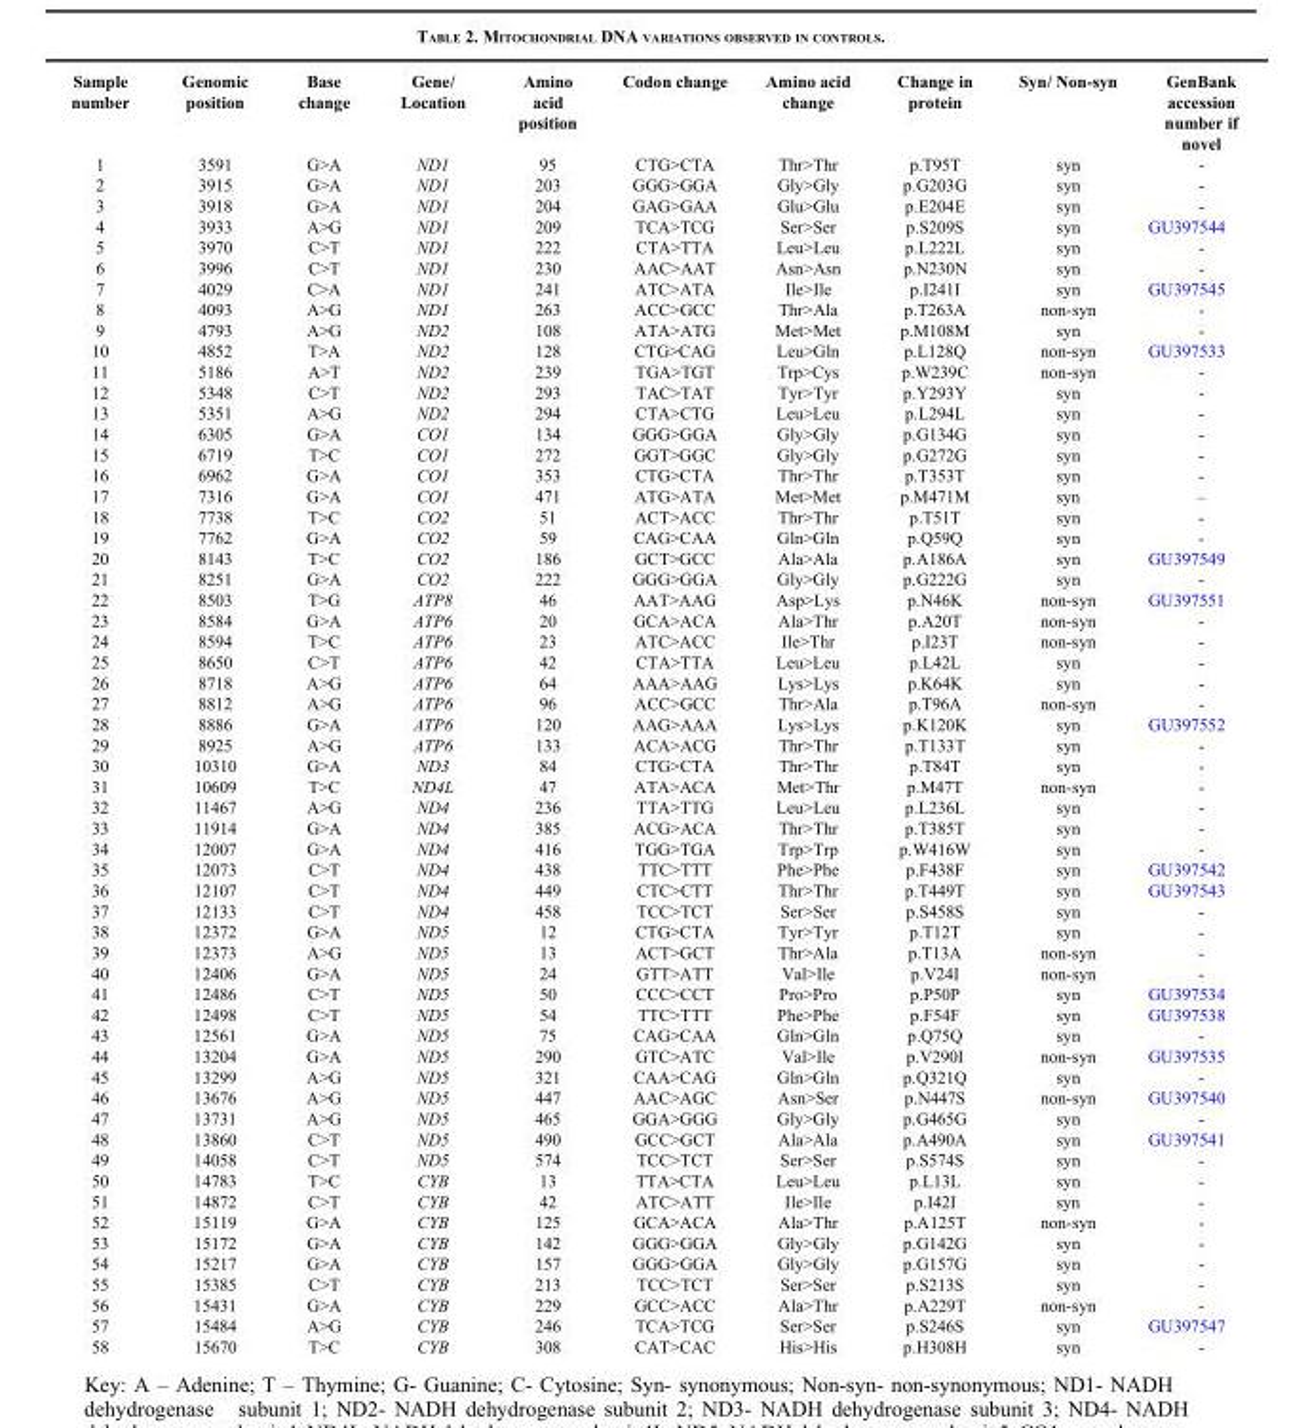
<table><thead><tr><td>Sample number</td><td>Genomic position</td><td>Base change</td><td>Gene/ Location</td><td>Amino acid position</td><td>Codon change</td><td>Amino acid change</td><td>Change in protein</td><td>Syn/ Non-syn</td><td>GenBank accession number if novel</td></tr></thead><tbody><tr><td>1</td><td>3591</td><td>G&gt;A</td><td>ND1</td><td>95</td><td>CTG&gt;CTA</td><td>Thr&gt;Thr</td><td>p.T95T</td><td>syn</td><td>-</td></tr><tr><td>2</td><td>3915</td><td>G&gt;A</td><td>ND1</td><td>203</td><td>GGG&gt;GGA</td><td>Gly&gt;Gly</td><td>p.G203G</td><td>syn</td><td>-</td></tr><tr><td>3</td><td>3918</td><td>G&gt;A</td><td>ND1</td><td>204</td><td>GAG&gt;GAA</td><td>Glu&gt;Glu</td><td>p.E204E</td><td>syn</td><td>-</td></tr><tr><td>4</td><td>3933</td><td>A&gt;G</td><td>ND1</td><td>209</td><td>TCA&gt;TCG</td><td>Ser&gt;Ser</td><td>p.S209S</td><td>syn</td><td>GU397544</td></tr><tr><td>5</td><td>3970</td><td>C&gt;T</td><td>ND1</td><td>222</td><td>CTA&gt;TTA</td><td>Leu&gt;Leu</td><td>p.L222L</td><td>syn</td><td>-</td></tr><tr><td>6</td><td>3996</td><td>C&gt;T</td><td>ND1</td><td>230</td><td>AAC&gt;AAT</td><td>Asn&gt;Asn</td><td>p.N230N</td><td>syn</td><td>-</td></tr><tr><td>7</td><td>4029</td><td>C&gt;A</td><td>ND1</td><td>241</td><td>ATC&gt;ATA</td><td>Ile&gt;Ile</td><td>p.I241I</td><td>syn</td><td>GU397545</td></tr><tr><td>8</td><td>4093</td><td>A&gt;G</td><td>ND1</td><td>263</td><td>ACC&gt;GCC</td><td>Thr&gt;Ala</td><td>p.T263A</td><td>non-syn</td><td>-</td></tr><tr><td>9</td><td>4793</td><td>A&gt;G</td><td>ND2</td><td>108</td><td>ATA&gt;ATG</td><td>Met&gt;Met</td><td>p.M108M</td><td>syn</td><td>-</td></tr><tr><td>10</td><td>4852</td><td>T&gt;A</td><td>ND2</td><td>128</td><td>CTG&gt;CAG</td><td>Leu&gt;Gln</td><td>p.L128Q</td><td>non-syn</td><td>GU397533</td></tr><tr><td>11</td><td>5186</td><td>A&gt;T</td><td>ND2</td><td>239</td><td>TGA&gt;TGT</td><td>Trp&gt;Cys</td><td>p.W239C</td><td>non-syn</td><td>-</td></tr><tr><td>12</td><td>5348</td><td>C&gt;T</td><td>ND2</td><td>293</td><td>TAC&gt;TAT</td><td>Tyr&gt;Tyr</td><td>p.Y293Y</td><td>syn</td><td>-</td></tr><tr><td>13</td><td>5351</td><td>A&gt;G</td><td>ND2</td><td>294</td><td>CTA&gt;CTG</td><td>Leu&gt;Leu</td><td>p.L294L</td><td>syn</td><td>-</td></tr><tr><td>14</td><td>6305</td><td>G&gt;A</td><td>CO1</td><td>134</td><td>GGG&gt;GGA</td><td>Gly&gt;Gly</td><td>p.G134G</td><td>syn</td><td>-</td></tr><tr><td>15</td><td>6719</td><td>T&gt;C</td><td>CO1</td><td>272</td><td>GGT&gt;GGC</td><td>Gly&gt;Gly</td><td>p.G272G</td><td>syn</td><td>-</td></tr><tr><td>16</td><td>6962</td><td>G&gt;A</td><td>CO1</td><td>353</td><td>CTG&gt;CTA</td><td>Thr&gt;Thr</td><td>p.T353T</td><td>syn</td><td>-</td></tr><tr><td>17</td><td>7316</td><td>G&gt;A</td><td>CO1</td><td>471</td><td>ATG&gt;ATA</td><td>Met&gt;Met</td><td>p.M471M</td><td>syn</td><td>–</td></tr><tr><td>18</td><td>7738</td><td>T&gt;C</td><td>CO2</td><td>51</td><td>ACT&gt;ACC</td><td>Thr&gt;Thr</td><td>p.T51T</td><td>syn</td><td>-</td></tr><tr><td>19</td><td>7762</td><td>G&gt;A</td><td>CO2</td><td>59</td><td>CAG&gt;CAA</td><td>Gln&gt;Gln</td><td>p.Q59Q</td><td>syn</td><td>-</td></tr><tr><td>20</td><td>8143</td><td>T&gt;C</td><td>CO2</td><td>186</td><td>GCT&gt;GCC</td><td>Ala&gt;Ala</td><td>p.A186A</td><td>syn</td><td>GU397549</td></tr><tr><td>21</td><td>8251</td><td>G&gt;A</td><td>CO2</td><td>222</td><td>GGG&gt;GGA</td><td>Gly&gt;Gly</td><td>p.G222G</td><td>syn</td><td>-</td></tr><tr><td>22</td><td>8503</td><td>T&gt;G</td><td>ATP8</td><td>46</td><td>AAT&gt;AAG</td><td>Asp&gt;Lys</td><td>p.N46K</td><td>non-syn</td><td>GU397551</td></tr><tr><td>23</td><td>8584</td><td>G&gt;A</td><td>ATP6</td><td>20</td><td>GCA&gt;ACA</td><td>Ala&gt;Thr</td><td>p.A20T</td><td>non-syn</td><td>-</td></tr><tr><td>24</td><td>8594</td><td>T&gt;C</td><td>ATP6</td><td>23</td><td>ATC&gt;ACC</td><td>Ile&gt;Thr</td><td>p.I23T</td><td>non-syn</td><td>-</td></tr><tr><td>25</td><td>8650</td><td>C&gt;T</td><td>ATP6</td><td>42</td><td>CTA&gt;TTA</td><td>Leu&gt;Leu</td><td>p.L42L</td><td>syn</td><td>-</td></tr><tr><td>26</td><td>8718</td><td>A&gt;G</td><td>ATP6</td><td>64</td><td>AAA&gt;AAG</td><td>Lys&gt;Lys</td><td>p.K64K</td><td>syn</td><td>-</td></tr><tr><td>27</td><td>8812</td><td>A&gt;G</td><td>ATP6</td><td>96</td><td>ACC&gt;GCC</td><td>Thr&gt;Ala</td><td>p.T96A</td><td>non-syn</td><td>-</td></tr><tr><td>28</td><td>8886</td><td>G&gt;A</td><td>ATP6</td><td>120</td><td>AAG&gt;AAA</td><td>Lys&gt;Lys</td><td>p.K120K</td><td>syn</td><td>GU397552</td></tr><tr><td>29</td><td>8925</td><td>A&gt;G</td><td>ATP6</td><td>133</td><td>ACA&gt;ACG</td><td>Thr&gt;Thr</td><td>p.T133T</td><td>syn</td><td>-</td></tr><tr><td>30</td><td>10310</td><td>G&gt;A</td><td>ND3</td><td>84</td><td>CTG&gt;CTA</td><td>Thr&gt;Thr</td><td>p.T84T</td><td>syn</td><td>-</td></tr><tr><td>31</td><td>10609</td><td>T&gt;C</td><td>ND4L</td><td>47</td><td>ATA&gt;ACA</td><td>Met&gt;Thr</td><td>p.M47T</td><td>non-syn</td><td>-</td></tr><tr><td>32</td><td>11467</td><td>A&gt;G</td><td>ND4</td><td>236</td><td>TTA&gt;TTG</td><td>Leu&gt;Leu</td><td>p.L236L</td><td>syn</td><td>-</td></tr><tr><td>33</td><td>11914</td><td>G&gt;A</td><td>ND4</td><td>385</td><td>ACG&gt;ACA</td><td>Thr&gt;Thr</td><td>p.T385T</td><td>syn</td><td>-</td></tr><tr><td>34</td><td>12007</td><td>G&gt;A</td><td>ND4</td><td>416</td><td>TGG&gt;TGA</td><td>Trp&gt;Trp</td><td>p.W416W</td><td>syn</td><td>-</td></tr><tr><td>35</td><td>12073</td><td>C&gt;T</td><td>ND4</td><td>438</td><td>TTC&gt;TTT</td><td>Phe&gt;Phe</td><td>p.F438F</td><td>syn</td><td>GU397542</td></tr><tr><td>36</td><td>12107</td><td>C&gt;T</td><td>ND4</td><td>449</td><td>CTC&gt;CTT</td><td>Thr&gt;Thr</td><td>p.T449T</td><td>syn</td><td>GU397543</td></tr><tr><td>37</td><td>12133</td><td>C&gt;T</td><td>ND4</td><td>458</td><td>TCC&gt;TCT</td><td>Ser&gt;Ser</td><td>p.S458S</td><td>syn</td><td>-</td></tr><tr><td>38</td><td>12372</td><td>G&gt;A</td><td>ND5</td><td>12</td><td>CTG&gt;CTA</td><td>Tyr&gt;Tyr</td><td>p.T12T</td><td>syn</td><td>-</td></tr><tr><td>39</td><td>12373</td><td>A&gt;G</td><td>ND5</td><td>13</td><td>ACT&gt;GCT</td><td>Thr&gt;Ala</td><td>p.T13A</td><td>non-syn</td><td>-</td></tr><tr><td>40</td><td>12406</td><td>G&gt;A</td><td>ND5</td><td>24</td><td>GTT&gt;ATT</td><td>Val&gt;Ile</td><td>p.V24I</td><td>non-syn</td><td>-</td></tr><tr><td>41</td><td>12486</td><td>C&gt;T</td><td>ND5</td><td>50</td><td>CCC&gt;CCT</td><td>Pro&gt;Pro</td><td>p.P50P</td><td>syn</td><td>GU397534</td></tr><tr><td>42</td><td>12498</td><td>C&gt;T</td><td>ND5</td><td>54</td><td>TTC&gt;TTT</td><td>Phe&gt;Phe</td><td>p.F54F</td><td>syn</td><td>GU397538</td></tr><tr><td>43</td><td>12561</td><td>G&gt;A</td><td>ND5</td><td>75</td><td>CAG&gt;CAA</td><td>Gln&gt;Gln</td><td>p.Q75Q</td><td>syn</td><td>-</td></tr><tr><td>44</td><td>13204</td><td>G&gt;A</td><td>ND5</td><td>290</td><td>GTC&gt;ATC</td><td>Val&gt;Ile</td><td>p.V290I</td><td>non-syn</td><td>GU397535</td></tr><tr><td>45</td><td>13299</td><td>A&gt;G</td><td>ND5</td><td>321</td><td>CAA&gt;CAG</td><td>Gln&gt;Gln</td><td>p.Q321Q</td><td>syn</td><td>-</td></tr><tr><td>46</td><td>13676</td><td>A&gt;G</td><td>ND5</td><td>447</td><td>AAC&gt;AGC</td><td>Asn&gt;Ser</td><td>p.N447S</td><td>non-syn</td><td>GU397540</td></tr><tr><td>47</td><td>13731</td><td>A&gt;G</td><td>ND5</td><td>465</td><td>GGA&gt;GGG</td><td>Gly&gt;Gly</td><td>p.G465G</td><td>syn</td><td>-</td></tr><tr><td>48</td><td>13860</td><td>C&gt;T</td><td>ND5</td><td>490</td><td>GCC&gt;GCT</td><td>Ala&gt;Ala</td><td>p.A490A</td><td>syn</td><td>GU397541</td></tr><tr><td>49</td><td>14058</td><td>C&gt;T</td><td>ND5</td><td>574</td><td>TCC&gt;TCT</td><td>Ser&gt;Ser</td><td>p.S574S</td><td>syn</td><td>-</td></tr><tr><td>50</td><td>14783</td><td>T&gt;C</td><td>CYB</td><td>13</td><td>TTA&gt;CTA</td><td>Leu&gt;Leu</td><td>p.L13L</td><td>syn</td><td>-</td></tr><tr><td>51</td><td>14872</td><td>C&gt;T</td><td>CYB</td><td>42</td><td>ATC&gt;ATT</td><td>Ile&gt;Ile</td><td>p.I42I</td><td>syn</td><td>-</td></tr><tr><td>52</td><td>15119</td><td>G&gt;A</td><td>CYB</td><td>125</td><td>GCA&gt;ACA</td><td>Ala&gt;Thr</td><td>p.A125T</td><td>non-syn</td><td>-</td></tr><tr><td>53</td><td>15172</td><td>G&gt;A</td><td>CYB</td><td>142</td><td>GGG&gt;GGA</td><td>Gly&gt;Gly</td><td>p.G142G</td><td>syn</td><td>-</td></tr><tr><td>54</td><td>15217</td><td>G&gt;A</td><td>CYB</td><td>157</td><td>GGG&gt;GGA</td><td>Gly&gt;Gly</td><td>p.G157G</td><td>syn</td><td>-</td></tr><tr><td>55</td><td>15385</td><td>C&gt;T</td><td>CYB</td><td>213</td><td>TCC&gt;TCT</td><td>Ser&gt;Ser</td><td>p.S213S</td><td>syn</td><td>-</td></tr><tr><td>56</td><td>15431</td><td>G&gt;A</td><td>CYB</td><td>229</td><td>GCC&gt;ACC</td><td>Ala&gt;Thr</td><td>p.A229T</td><td>non-syn</td><td>-</td></tr><tr><td>57</td><td>15484</td><td>A&gt;G</td><td>CYB</td><td>246</td><td>TCA&gt;TCG</td><td>Ser&gt;Ser</td><td>p.S246S</td><td>syn</td><td>GU397547</td></tr><tr><td>58</td><td>15670</td><td>T&gt;C</td><td>CYB</td><td>308</td><td>CAT&gt;CAC</td><td>His&gt;His</td><td>p.H308H</td><td>syn</td><td>-</td></tr></tbody></table>